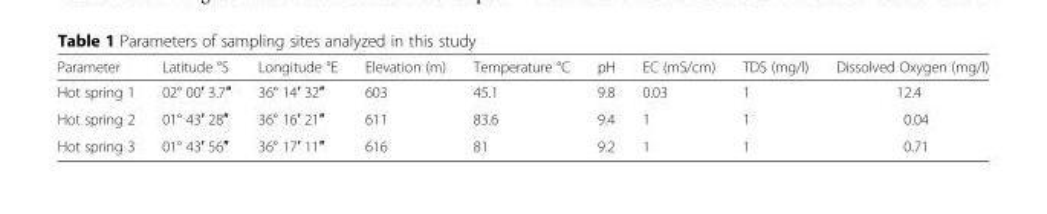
<table><thead><tr><td>Parameter</td><td>Latitude °S</td><td>Longitude °E</td><td>Elevation (m)</td><td>Temperature °C</td><td>pH</td><td>EC (mS/cm)</td><td>TDS (mg/l)</td><td>Dissolved Oxygen (mg/l)</td></tr></thead><tbody><tr><td>Hot spring 1</td><td>02° 00′ 3.7″</td><td>36° 14′ 32″</td><td>603</td><td>45.1</td><td>9.8</td><td>0.03</td><td>1</td><td>12.4</td></tr><tr><td>Hot spring 2</td><td>01° 43′ 28″</td><td>36° 16′ 21″</td><td>611</td><td>83.6</td><td>9.4</td><td>1</td><td>1</td><td>0.04</td></tr><tr><td>Hot spring 3</td><td>01° 43′ 56″</td><td>36° 17′ 11″</td><td>616</td><td>81</td><td>9.2</td><td>1</td><td>1</td><td>0.71</td></tr></tbody></table>